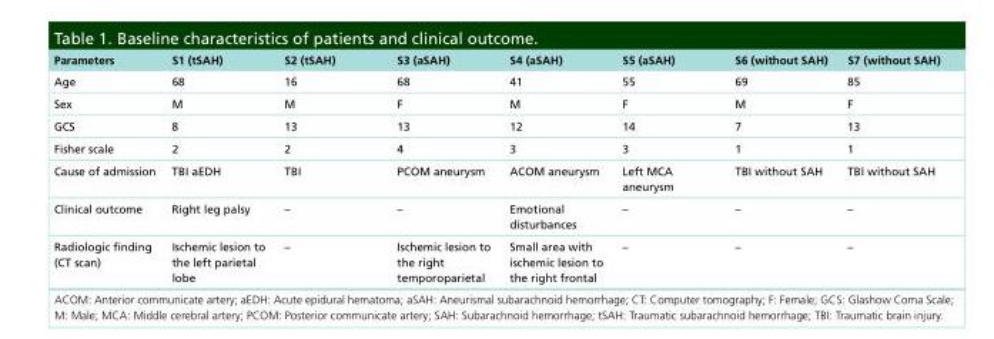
<table><thead><tr><td>Parameters</td><td>S1 (tSAH)</td><td>S2 (tSAH)</td><td>S3 (aSAH)</td><td>S4 (aSAH)</td><td>S5 (aSAH)</td><td>S6 (without SAH)</td><td>S7 (without SAH)</td></tr></thead><tbody><tr><td>Age</td><td>68</td><td>16</td><td>68</td><td>41</td><td>55</td><td>69</td><td>85</td></tr><tr><td>Sex</td><td>M</td><td>M</td><td>F</td><td>M</td><td>F</td><td>M</td><td>F</td></tr><tr><td>GCS</td><td>8</td><td>13</td><td>13</td><td>12</td><td>14</td><td>7</td><td>13</td></tr><tr><td>Fisher scale</td><td>2</td><td>2</td><td>4</td><td>3</td><td>3</td><td>1</td><td>1</td></tr><tr><td>Cause of admission</td><td>TBI aEDH</td><td>TBI</td><td>PCOM aneurysm</td><td>ACOM aneurysm</td><td>Left MCA aneurysm</td><td>TBI without SAH</td><td>TBI without SAH</td></tr><tr><td>Clinical outcome</td><td>Right leg palsy</td><td>–</td><td>–</td><td>Emotional disturbances</td><td>–</td><td>–</td><td>–</td></tr><tr><td>Radiologic finding (CT scan)</td><td>Ischemic lesion to the left parietal lobe</td><td>–</td><td>Ischemic lesion to the right temporoparietal</td><td>Small area with ischemic lesion to the right frontal</td><td>–</td><td>–</td><td>–</td></tr></tbody></table>